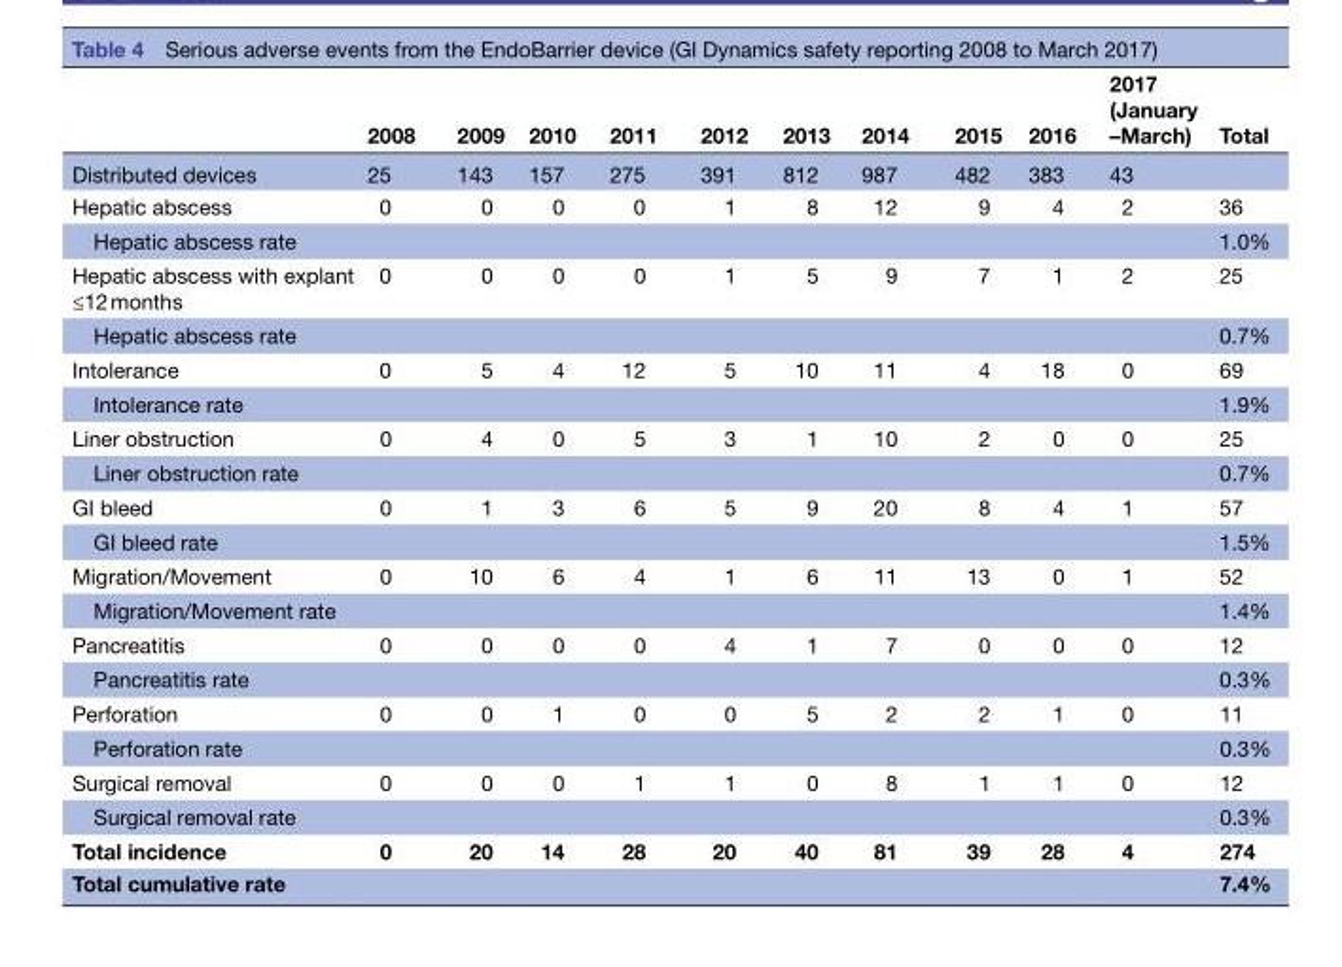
<table><thead><tr><td></td><td>2008</td><td>2009</td><td>2010</td><td>2011</td><td>2012</td><td>2013</td><td>2014</td><td>2015</td><td>2016</td><td>2017 (January –March)</td><td>Total</td></tr></thead><tbody><tr><td>Distributed devices</td><td>25</td><td>143</td><td>157</td><td>275</td><td>391</td><td>812</td><td>987</td><td>482</td><td>383</td><td>43</td><td></td></tr><tr><td>Hepatic abscess</td><td>0</td><td>0</td><td>0</td><td>0</td><td>1</td><td>8</td><td>12</td><td>9</td><td>4</td><td>2</td><td>36</td></tr><tr><td colspan="11">Hepatic abscess rate</td><td>1.0%</td></tr><tr><td>Hepatic abscess with explant ≤12 months</td><td>0</td><td>0</td><td>0</td><td>0</td><td>1</td><td>5</td><td>9</td><td>7</td><td>1</td><td>2</td><td>25</td></tr><tr><td colspan="11">Hepatic abscess rate</td><td>0.7%</td></tr><tr><td>Intolerance</td><td>0</td><td>5</td><td>4</td><td>12</td><td>5</td><td>10</td><td>11</td><td>4</td><td>18</td><td>0</td><td>69</td></tr><tr><td colspan="11">Intolerance rate</td><td>1.9%</td></tr><tr><td>Liner obstruction</td><td>0</td><td>4</td><td>0</td><td>5</td><td>3</td><td>1</td><td>10</td><td>2</td><td>0</td><td>0</td><td>25</td></tr><tr><td colspan="11">Liner obstruction rate</td><td>0.7%</td></tr><tr><td>GI bleed</td><td>0</td><td>1</td><td>3</td><td>6</td><td>5</td><td>9</td><td>20</td><td>8</td><td>4</td><td>1</td><td>57</td></tr><tr><td colspan="11">GI bleed rate</td><td>1.5%</td></tr><tr><td>Migration/Movement</td><td>0</td><td>10</td><td>6</td><td>4</td><td>1</td><td>6</td><td>11</td><td>13</td><td>0</td><td>1</td><td>52</td></tr><tr><td colspan="11">Migration/Movement rate</td><td>1.4%</td></tr><tr><td>Pancreatitis</td><td>0</td><td>0</td><td>0</td><td>0</td><td>4</td><td>1</td><td>7</td><td>0</td><td>0</td><td>0</td><td>12</td></tr><tr><td colspan="11">Pancreatitis rate</td><td>0.3%</td></tr><tr><td>Perforation</td><td>0</td><td>0</td><td>1</td><td>0</td><td>0</td><td>5</td><td>2</td><td>2</td><td>1</td><td>0</td><td>11</td></tr><tr><td colspan="11">Perforation rate</td><td>0.3%</td></tr><tr><td>Surgical removal</td><td>0</td><td>0</td><td>0</td><td>1</td><td>1</td><td>0</td><td>8</td><td>1</td><td>1</td><td>0</td><td>12</td></tr><tr><td colspan="11">Surgical removal rate</td><td>0.3%</td></tr><tr><td>Total incidence</td><td>0</td><td>20</td><td>14</td><td>28</td><td>20</td><td>40</td><td>81</td><td>39</td><td>28</td><td>4</td><td>274</td></tr><tr><td colspan="11">Total cumulative rate</td><td>7.4%</td></tr></tbody></table>